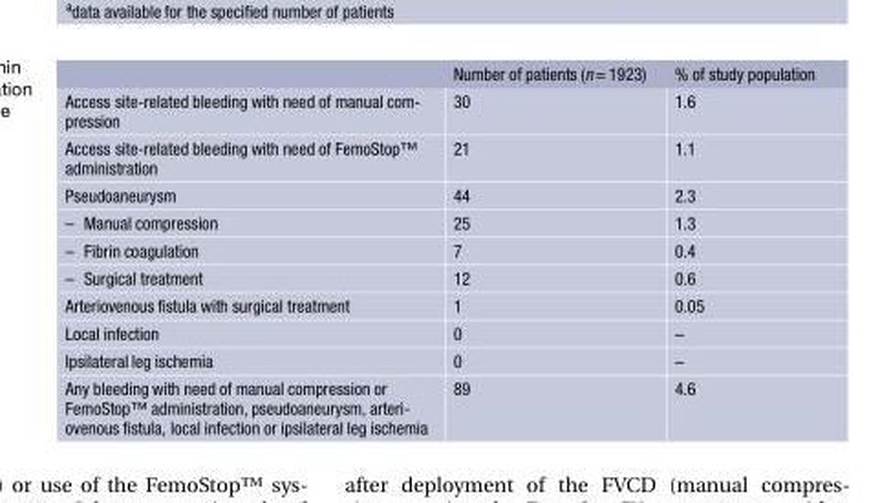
<table><thead><tr><td></td><td>Number of patients (n= 1923)</td><td>% of study population</td></tr></thead><tbody><tr><td>Access site-related bleeding with need of manual com- pression</td><td>30</td><td>1.6</td></tr><tr><td>Access site-related bleeding with need of FemoStop™ administration</td><td>21</td><td>1.1</td></tr><tr><td>Pseudoaneurysm</td><td>44</td><td>2.3</td></tr><tr><td>– Manual compression</td><td>25</td><td>1.3</td></tr><tr><td>– Fibrin coagulation</td><td>7</td><td>0.4</td></tr><tr><td>– Surgical treatment</td><td>12</td><td>0.6</td></tr><tr><td>Arteriovenous fistula with surgical treatment</td><td>1</td><td>0.05</td></tr><tr><td>Local infection</td><td>0</td><td>–</td></tr><tr><td>Ipsilateral leg ischemia</td><td>0</td><td>–</td></tr><tr><td>Any bleeding with need of manual compression or FemoStop™ administration, pseudoaneurysm, arteri- ovenous fistula, local infection or ipsilateral leg ischemia</td><td>89</td><td>4.6</td></tr></tbody></table>